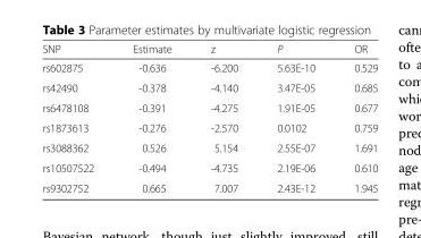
<table><thead><tr><td>SNP</td><td>Estimate</td><td>z</td><td>P</td><td>OR</td></tr></thead><tbody><tr><td>rs602875</td><td>-0.636</td><td>-6.200</td><td>5.63E-10</td><td>0.529</td></tr><tr><td>rs42490</td><td>-0.378</td><td>-4.140</td><td>3.47E-05</td><td>0.685</td></tr><tr><td>rs6478108</td><td>-0.391</td><td>-4.275</td><td>1.91E-05</td><td>0.677</td></tr><tr><td>rs1873613</td><td>-0.276</td><td>-2.570</td><td>0.0102</td><td>0.759</td></tr><tr><td>rs3088362</td><td>0.526</td><td>5.154</td><td>2.55E-07</td><td>1.691</td></tr><tr><td>rs10507522</td><td>-0.494</td><td>-4.735</td><td>2.19E-06</td><td>0.610</td></tr><tr><td>rs9302752</td><td>0.665</td><td>7.007</td><td>2.43E-12</td><td>1.945</td></tr></tbody></table>